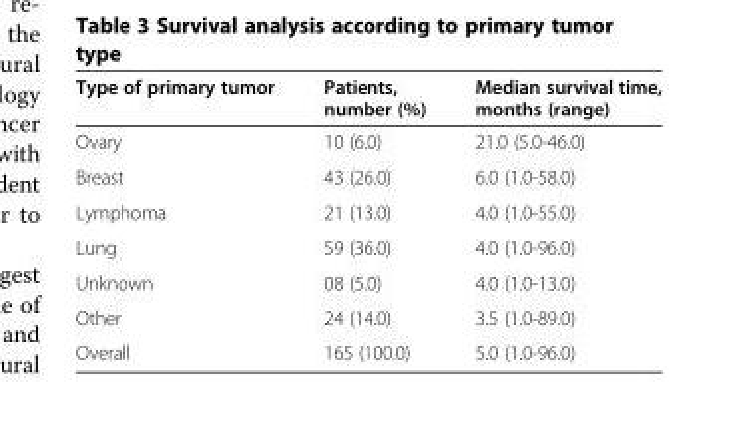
<table><thead><tr><td>Type of primary tumor</td><td>Patients, number (%)</td><td>Median survival time, months (range)</td></tr></thead><tbody><tr><td>Ovary</td><td>10 (6.0)</td><td>21.0 (5.0-46.0)</td></tr><tr><td>Breast</td><td>43 (26.0)</td><td>6.0 (1.0-58.0)</td></tr><tr><td>Lymphoma</td><td>21 (13.0)</td><td>4.0 (1.0-55.0)</td></tr><tr><td>Lung</td><td>59 (36.0)</td><td>4.0 (1.0-96.0)</td></tr><tr><td>Unknown</td><td>08 (5.0)</td><td>4.0 (1.0-13.0)</td></tr><tr><td>Other</td><td>24 (14.0)</td><td>3.5 (1.0-89.0)</td></tr><tr><td>Overall</td><td>165 (100.0)</td><td>5.0 (1.0-96.0)</td></tr></tbody></table>